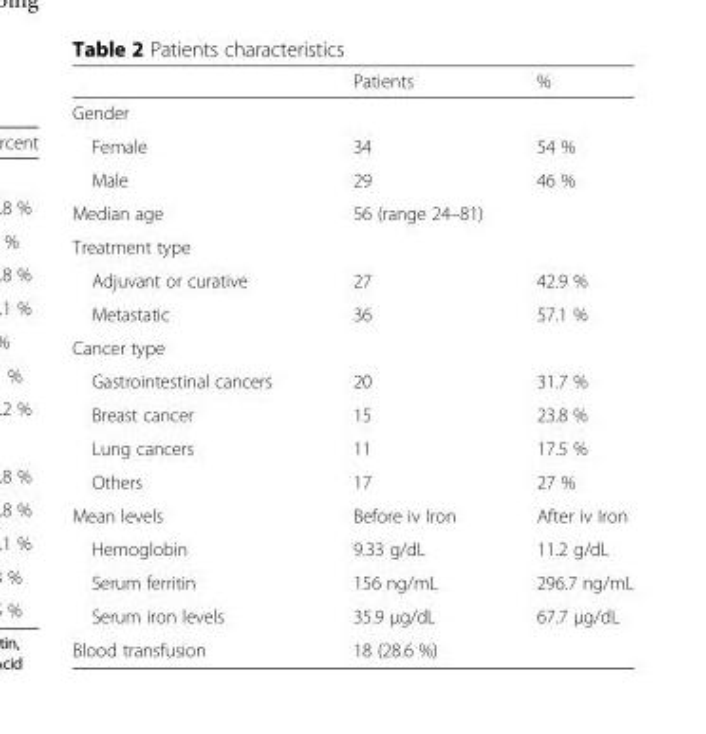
<table><thead><tr><td></td><td>Patients</td><td>%</td></tr></thead><tbody><tr><td colspan="3">Gender</td></tr><tr><td>Female</td><td>34</td><td>54 %</td></tr><tr><td>Male</td><td>29</td><td>46 %</td></tr><tr><td>Median age</td><td colspan="2">56 (range 24–81)</td></tr><tr><td colspan="3">Treatment type</td></tr><tr><td>Adjuvant or curative</td><td>27</td><td>42.9 %</td></tr><tr><td>Metastatic</td><td>36</td><td>57.1 %</td></tr><tr><td colspan="3">Cancer type</td></tr><tr><td>Gastrointestinal cancers</td><td>20</td><td>31.7 %</td></tr><tr><td>Breast cancer</td><td>15</td><td>23.8 %</td></tr><tr><td>Lung cancers</td><td>11</td><td>17.5 %</td></tr><tr><td>Others</td><td>17</td><td>27 %</td></tr><tr><td>Mean levels</td><td>Before iv Iron</td><td>After iv Iron</td></tr><tr><td>Hemoglobin</td><td>9.33 g/dL</td><td>11.2 g/dL</td></tr><tr><td>Serum ferritin</td><td>156 ng/mL</td><td>296.7 ng/mL</td></tr><tr><td>Serum iron levels</td><td>35.9 μg/dL</td><td>67.7 μg/dL</td></tr><tr><td>Blood transfusion</td><td colspan="2">18 (28.6 %)</td></tr></tbody></table>